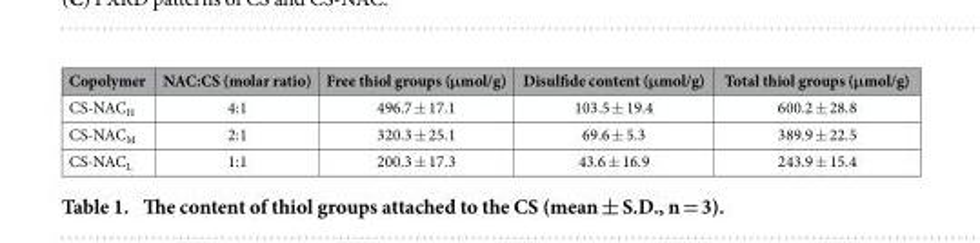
<table><thead><tr><td>Copolymer</td><td>NAC:CS (molar ratio)</td><td>Free thiol groups (μmol/g)</td><td>Disulfide content (μmol/g)</td><td>Total thiol groups (μmol/g)</td></tr></thead><tbody><tr><td>CS-NAC<sub>H</sub></td><td>4:1</td><td>496.7 ± 17.1</td><td>103.5 ± 19.4</td><td>600.2 ± 28.8</td></tr><tr><td>CS-NAC<sub>M</sub></td><td>2:1</td><td>320.3 ± 25.1</td><td>69.6 ± 5.3</td><td>389.9 ± 22.5</td></tr><tr><td>CS-NAC<sub>L</sub></td><td>1:1</td><td>200.3 ± 17.3</td><td>43.6 ± 16.9</td><td>243.9 ± 15.4</td></tr></tbody></table>